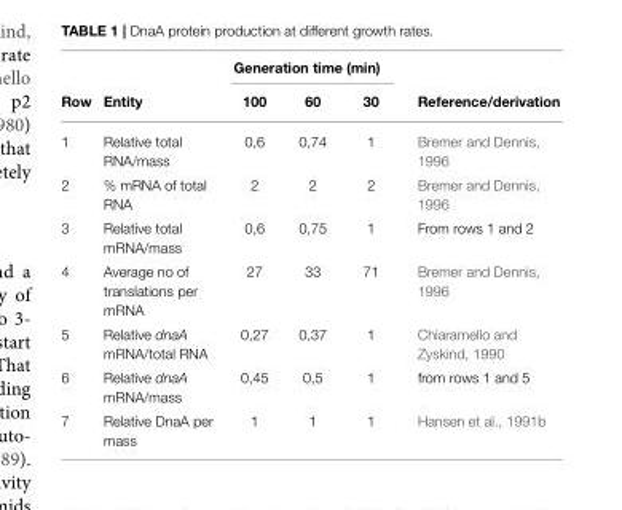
<table><thead><tr><td rowspan="2">Row</td><td rowspan="2">Entity</td><td colspan="3">Generation time (min)</td><td rowspan="2">Reference/derivation</td></tr><tr><td>100</td><td>60</td><td>30</td></tr></thead><tbody><tr><td>1</td><td>Relative total RNA/mass</td><td>0,6</td><td>0,74</td><td>1</td><td>Bremer and Dennis, 1996</td></tr><tr><td>2</td><td>% mRNA of total RNA</td><td>2</td><td>2</td><td>2</td><td>Bremer and Dennis, 1996</td></tr><tr><td>3</td><td>Relative total mRNA/mass</td><td>0,6</td><td>0,75</td><td>1</td><td>From rows 1 and 2</td></tr><tr><td>4</td><td>Average no of translations per mRNA</td><td>27</td><td>33</td><td>71</td><td>Bremer and Dennis, 1996</td></tr><tr><td>5</td><td>Relative dnaA mRNA/total RNA</td><td>0,27</td><td>0,37</td><td>1</td><td>Chiaramello and Zyskind, 1990</td></tr><tr><td>6</td><td>Relative dnaA mRNA/mass</td><td>0,45</td><td>0,5</td><td>1</td><td>from rows 1 and 5</td></tr><tr><td>7</td><td>Relative DnaA per mass</td><td>1</td><td>1</td><td>1</td><td>Hansen et al., 1991b</td></tr></tbody></table>